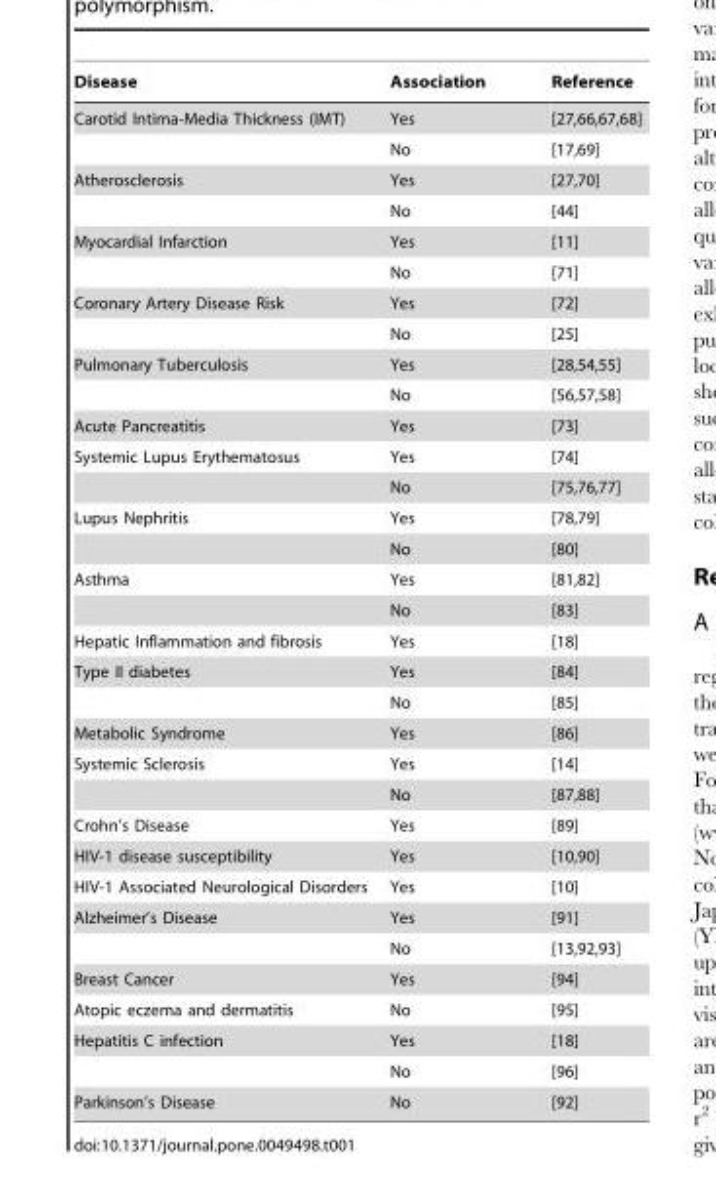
<table><thead><tr><td>Disease</td><td>Association</td><td>Reference</td></tr></thead><tbody><tr><td rowspan="2">Carotid Intima-Media Thickness (IMT)</td><td>Yes</td><td>[27,66,67,68]</td></tr><tr><td>No</td><td>[17,69]</td></tr><tr><td rowspan="2">Atherosclerosis</td><td>Yes</td><td>[27,70]</td></tr><tr><td>No</td><td>[44]</td></tr><tr><td rowspan="2">Myocardial Infarction</td><td>Yes</td><td>[11]</td></tr><tr><td>No</td><td>[71]</td></tr><tr><td rowspan="2">Coronary Artery Disease Risk</td><td>Yes</td><td>[72]</td></tr><tr><td>No</td><td>[25]</td></tr><tr><td rowspan="2">Pulmonary Tuberculosis</td><td>Yes</td><td>[28,54,55]</td></tr><tr><td>No</td><td>[56,57,58]</td></tr><tr><td>Acute Pancreatitis</td><td>Yes</td><td>[73]</td></tr><tr><td rowspan="2">Systemic Lupus Erythematosus</td><td>Yes</td><td>[74]</td></tr><tr><td>No</td><td>[75,76,77]</td></tr><tr><td rowspan="2">Lupus Nephritis</td><td>Yes</td><td>[78,79]</td></tr><tr><td>No</td><td>[80]</td></tr><tr><td rowspan="2">Asthma</td><td>Yes</td><td>[81,82]</td></tr><tr><td>No</td><td>[83]</td></tr><tr><td>Hepatic Inflammation and fibrosis</td><td>Yes</td><td>[18]</td></tr><tr><td rowspan="2">Type II diabetes</td><td>Yes</td><td>[84]</td></tr><tr><td>No</td><td>[85]</td></tr><tr><td>Metabolic Syndrome</td><td>Yes</td><td>[86]</td></tr><tr><td rowspan="2">Systemic Sclerosis</td><td>Yes</td><td>[14]</td></tr><tr><td>No</td><td>[87,88]</td></tr><tr><td>Crohn’s Disease</td><td>Yes</td><td>[89]</td></tr><tr><td>HIV-1 disease susceptibility</td><td>Yes</td><td>[10,90]</td></tr><tr><td>HIV-1 Associated Neurological Disorders</td><td>Yes</td><td>[10]</td></tr><tr><td rowspan="2">Alzheimer’s Disease</td><td>Yes</td><td>[91]</td></tr><tr><td>No</td><td>[13,92,93]</td></tr><tr><td>Breast Cancer</td><td>Yes</td><td>[94]</td></tr><tr><td>Atopic eczema and dermatitis</td><td>No</td><td>[95]</td></tr><tr><td rowspan="2">Hepatitis C infection</td><td>Yes</td><td>[18]</td></tr><tr><td>No</td><td>[96]</td></tr><tr><td>Parkinson’s Disease</td><td>No</td><td>[92]</td></tr></tbody></table>